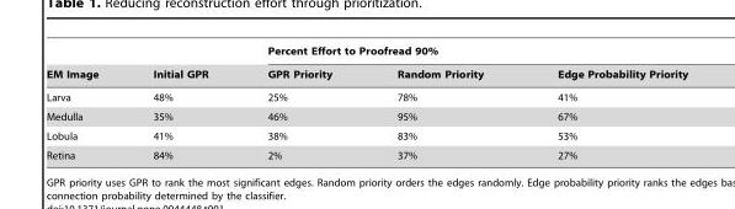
<table><thead><tr><td rowspan="2">EM Image</td><td rowspan="2">Initial GPR</td><td colspan="3">Percent Effort to Proofread 90%</td></tr><tr><td>GPR Priority</td><td>Random Priority</td><td>Edge Probability Priority</td></tr></thead><tbody><tr><td>Larva</td><td>48%</td><td>25%</td><td>78%</td><td>41%</td></tr><tr><td>Medulla</td><td>35%</td><td>46%</td><td>95%</td><td>67%</td></tr><tr><td>Lobula</td><td>41%</td><td>38%</td><td>83%</td><td>53%</td></tr><tr><td>Retina</td><td>84%</td><td>2%</td><td>37%</td><td>27%</td></tr></tbody></table>